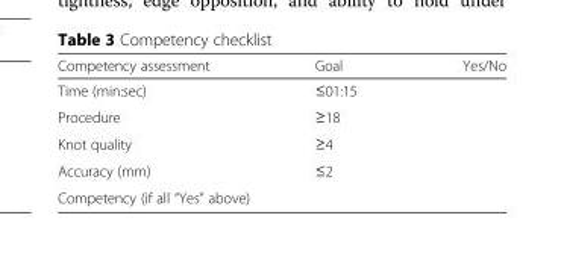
<table><thead><tr><td>Competency assessment</td><td>Goal</td><td>Yes/No</td></tr></thead><tbody><tr><td>Time (min:sec)</td><td>≤01:15</td><td></td></tr><tr><td>Procedure</td><td>≥18</td><td></td></tr><tr><td>Knot quality</td><td>≥4</td><td></td></tr><tr><td>Accuracy (mm)</td><td>≤2</td><td></td></tr><tr><td colspan="3">Competency (if all “Yes” above)</td></tr></tbody></table>